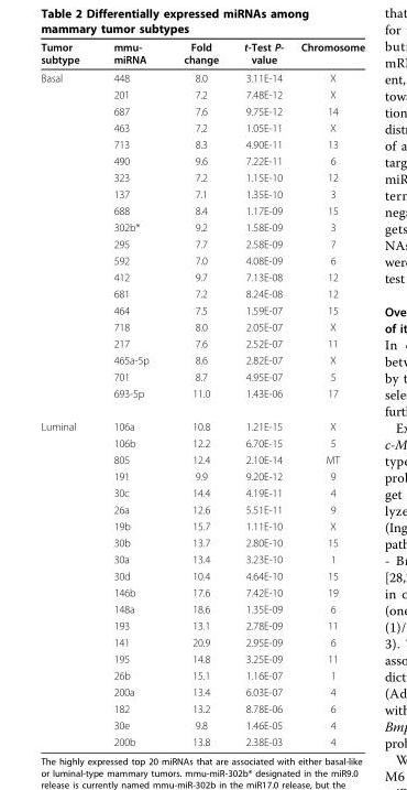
<table><thead><tr><td>Tumor subtype</td><td>mmu- miRNA</td><td>Fold change</td><td>t-Test P- value</td><td>Chromosome</td></tr></thead><tbody><tr><td rowspan="20">Basal</td><td>448</td><td>8.0</td><td>3.11E-14</td><td>X</td></tr><tr><td>201</td><td>7.2</td><td>7.48E-12</td><td>X</td></tr><tr><td>687</td><td>7.6</td><td>9.75E-12</td><td>14</td></tr><tr><td>463</td><td>7.2</td><td>1.05E-11</td><td>X</td></tr><tr><td>713</td><td>8.3</td><td>4.90E-11</td><td>13</td></tr><tr><td>490</td><td>9.6</td><td>7.22E-11</td><td>6</td></tr><tr><td>323</td><td>7.2</td><td>1.15E-10</td><td>12</td></tr><tr><td>137</td><td>7.1</td><td>1.35E-10</td><td>3</td></tr><tr><td>688</td><td>8.4</td><td>1.17E-09</td><td>15</td></tr><tr><td>302b*</td><td>9.2</td><td>1.58E-09</td><td>3</td></tr><tr><td>295</td><td>7.7</td><td>2.58E-09</td><td>7</td></tr><tr><td>592</td><td>7.0</td><td>4.08E-09</td><td>6</td></tr><tr><td>412</td><td>9.7</td><td>7.13E-08</td><td>12</td></tr><tr><td>681</td><td>7.2</td><td>8.24E-08</td><td>12</td></tr><tr><td>464</td><td>7.5</td><td>1.59E-07</td><td>15</td></tr><tr><td>718</td><td>8.0</td><td>2.05E-07</td><td>X</td></tr><tr><td>217</td><td>7.6</td><td>2.52E-07</td><td>11</td></tr><tr><td>465a-5p</td><td>8.6</td><td>2.82E-07</td><td>X</td></tr><tr><td>701</td><td>8.7</td><td>4.95E-07</td><td>5</td></tr><tr><td>693-5p</td><td>11.0</td><td>1.43E-06</td><td>17</td></tr><tr><td rowspan="20">Luminal</td><td>106a</td><td>10.8</td><td>1.21E-15</td><td>X</td></tr><tr><td>106b</td><td>12.2</td><td>6.70E-15</td><td>5</td></tr><tr><td>805</td><td>12.4</td><td>2.10E-14</td><td>MT</td></tr><tr><td>191</td><td>9.9</td><td>9.20E-12</td><td>9</td></tr><tr><td>30c</td><td>14.4</td><td>4.19E-11</td><td>4</td></tr><tr><td>26a</td><td>12.6</td><td>5.51E-11</td><td>9</td></tr><tr><td>19b</td><td>15.7</td><td>1.11E-10</td><td>X</td></tr><tr><td>30b</td><td>13.7</td><td>2.80E-10</td><td>15</td></tr><tr><td>30a</td><td>13.4</td><td>3.23E-10</td><td>1</td></tr><tr><td>30d</td><td>10.4</td><td>4.64E-10</td><td>15</td></tr><tr><td>146b</td><td>17.6</td><td>7.42E-10</td><td>19</td></tr><tr><td>148a</td><td>18.6</td><td>1.35E-09</td><td>6</td></tr><tr><td>193</td><td>13.1</td><td>2.78E-09</td><td>11</td></tr><tr><td>141</td><td>20.9</td><td>2.95E-09</td><td>6</td></tr><tr><td>195</td><td>14.8</td><td>3.25E-09</td><td>11</td></tr><tr><td>26b</td><td>15.1</td><td>1.16E-07</td><td>1</td></tr><tr><td>200a</td><td>13.4</td><td>6.03E-07</td><td>4</td></tr><tr><td>182</td><td>13.2</td><td>8.78E-06</td><td>6</td></tr><tr><td>30e</td><td>9.8</td><td>1.46E-05</td><td>4</td></tr><tr><td>200b</td><td>13.8</td><td>2.38E-03</td><td>4</td></tr></tbody></table>